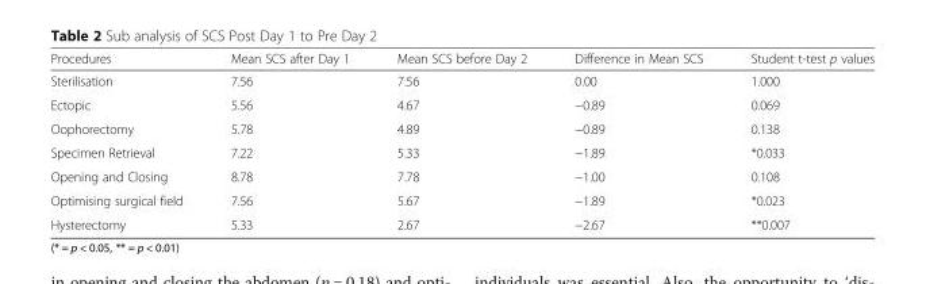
<table><thead><tr><td>Procedures</td><td>Mean SCS after Day 1</td><td>Mean SCS before Day 2</td><td>Difference in Mean SCS</td><td>Student t-test p values</td></tr></thead><tbody><tr><td>Sterilisation</td><td>7.56</td><td>7.56</td><td>0.00</td><td>1.000</td></tr><tr><td>Ectopic</td><td>5.56</td><td>4.67</td><td>−0.89</td><td>0.069</td></tr><tr><td>Oophorectomy</td><td>5.78</td><td>4.89</td><td>−0.89</td><td>0.138</td></tr><tr><td>Specimen Retrieval</td><td>7.22</td><td>5.33</td><td>−1.89</td><td>*0.033</td></tr><tr><td>Opening and Closing</td><td>8.78</td><td>7.78</td><td>−1.00</td><td>0.108</td></tr><tr><td>Optimising surgical field</td><td>7.56</td><td>5.67</td><td>−1.89</td><td>*0.023</td></tr><tr><td>Hysterectomy</td><td>5.33</td><td>2.67</td><td>−2.67</td><td>**0.007</td></tr></tbody></table>